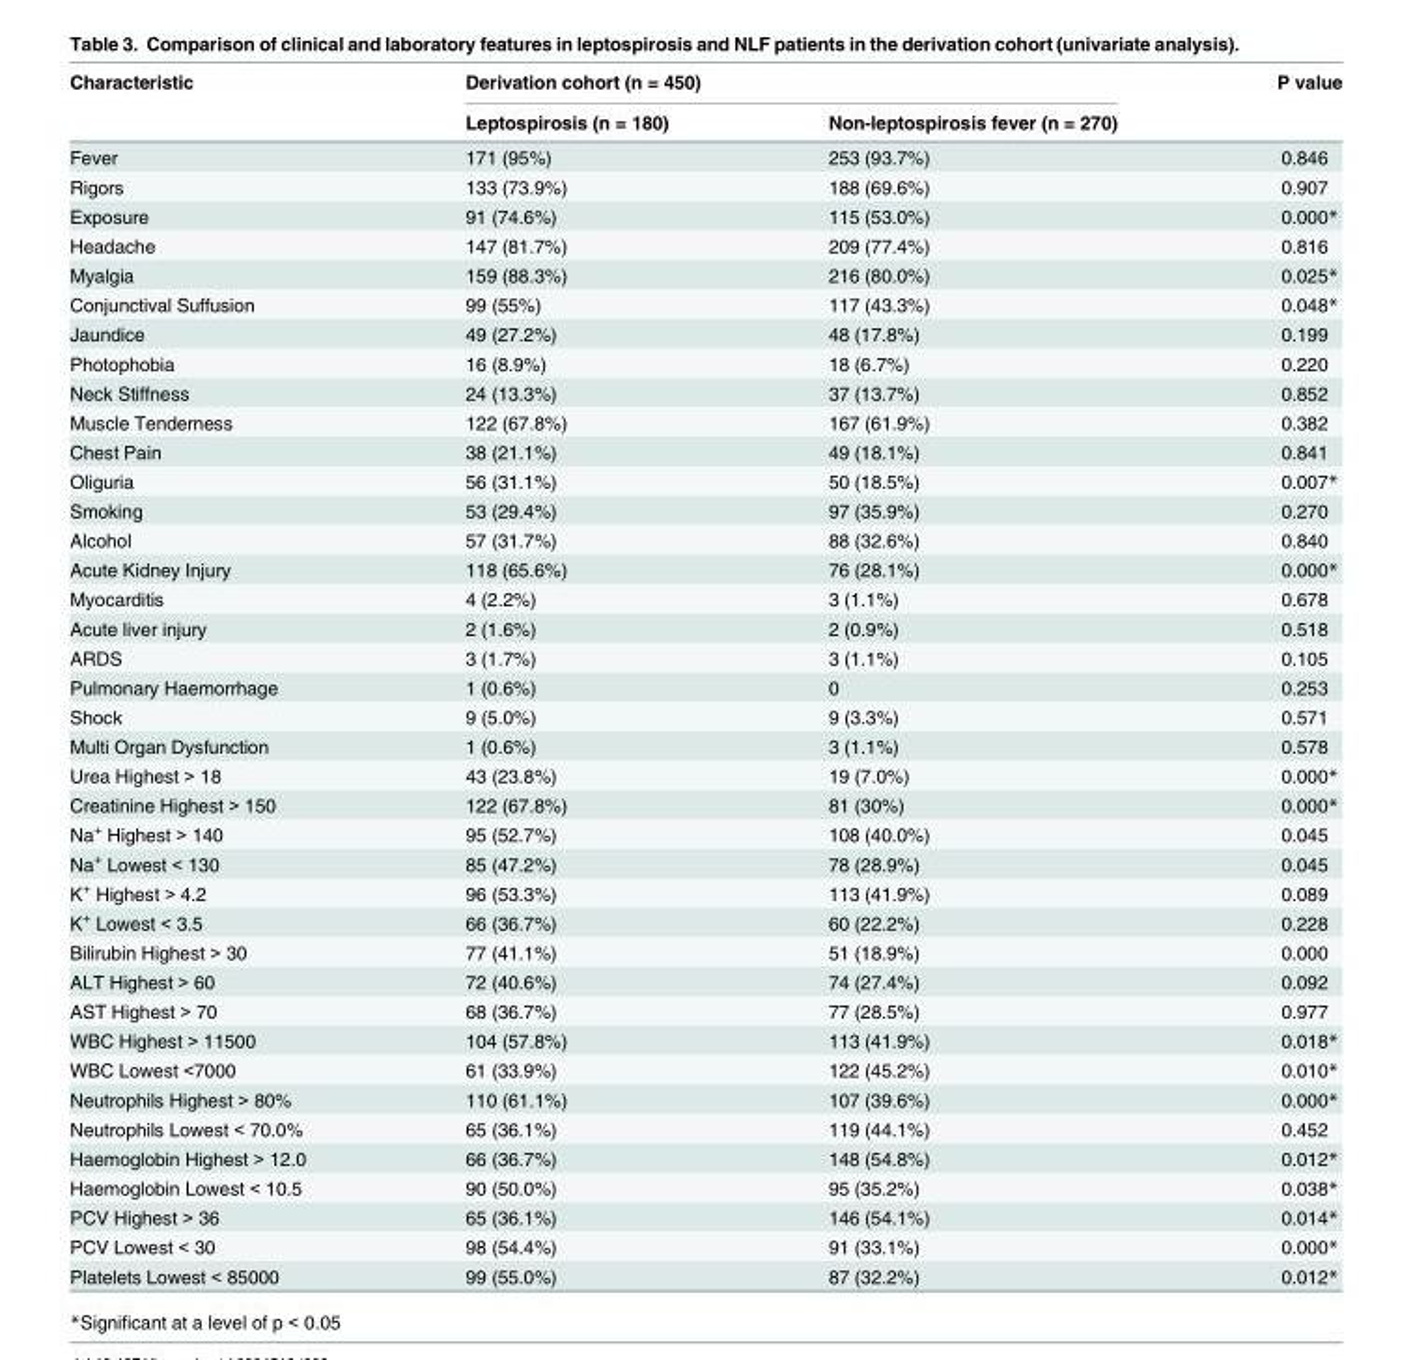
<table><thead><tr><td rowspan="2">Characteristic</td><td colspan="2">Derivation cohort (n = 450)</td><td rowspan="2">P value</td></tr><tr><td>Leptospirosis (n = 180)</td><td>Non-leptospirosis fever (n = 270)</td></tr></thead><tbody><tr><td>Fever</td><td>171 (95%)</td><td>253 (93.7%)</td><td>0.846</td></tr><tr><td>Rigors</td><td>133 (73.9%)</td><td>188 (69.6%)</td><td>0.907</td></tr><tr><td>Exposure</td><td>91 (74.6%)</td><td>115 (53.0%)</td><td>0.000*</td></tr><tr><td>Headache</td><td>147 (81.7%)</td><td>209 (77.4%)</td><td>0.816</td></tr><tr><td>Myalgia</td><td>159 (88.3%)</td><td>216 (80.0%)</td><td>0.025*</td></tr><tr><td>Conjunctival Suffusion</td><td>99 (55%)</td><td>117 (43.3%)</td><td>0.048*</td></tr><tr><td>Jaundice</td><td>49 (27.2%)</td><td>48 (17.8%)</td><td>0.199</td></tr><tr><td>Photophobia</td><td>16 (8.9%)</td><td>18 (6.7%)</td><td>0.220</td></tr><tr><td>Neck Stiffness</td><td>24 (13.3%)</td><td>37 (13.7%)</td><td>0.852</td></tr><tr><td>Muscle Tenderness</td><td>122 (67.8%)</td><td>167 (61.9%)</td><td>0.382</td></tr><tr><td>Chest Pain</td><td>38 (21.1%)</td><td>49 (18.1%)</td><td>0.841</td></tr><tr><td>Oliguria</td><td>56 (31.1%)</td><td>50 (18.5%)</td><td>0.007*</td></tr><tr><td>Smoking</td><td>53 (29.4%)</td><td>97 (35.9%)</td><td>0.270</td></tr><tr><td>Alcohol</td><td>57 (31.7%)</td><td>88 (32.6%)</td><td>0.840</td></tr><tr><td>Acute Kidney Injury</td><td>118 (65.6%)</td><td>76 (28.1%)</td><td>0.000*</td></tr><tr><td>Myocarditis</td><td>4 (2.2%)</td><td>3 (1.1%)</td><td>0.678</td></tr><tr><td>Acute liver injury</td><td>2 (1.6%)</td><td>2 (0.9%)</td><td>0.518</td></tr><tr><td>ARDS</td><td>3 (1.7%)</td><td>3 (1.1%)</td><td>0.105</td></tr><tr><td>Pulmonary Haemorrhage</td><td>1 (0.6%)</td><td>0</td><td>0.253</td></tr><tr><td>Shock</td><td>9 (5.0%)</td><td>9 (3.3%)</td><td>0.571</td></tr><tr><td>Multi Organ Dysfunction</td><td>1 (0.6%)</td><td>3 (1.1%)</td><td>0.578</td></tr><tr><td>Urea Highest &gt; 18</td><td>43 (23.8%)</td><td>19 (7.0%)</td><td>0.000*</td></tr><tr><td>Creatinine Highest &gt; 150</td><td>122 (67.8%)</td><td>81 (30%)</td><td>0.000*</td></tr><tr><td>Na<sup>+</sup> Highest &gt; 140</td><td>95 (52.7%)</td><td>108 (40.0%)</td><td>0.045</td></tr><tr><td>Na<sup>+</sup> Lowest &lt; 130</td><td>85 (47.2%)</td><td>78 (28.9%)</td><td>0.045</td></tr><tr><td>K<sup>+</sup> Highest &gt; 4.2</td><td>96 (53.3%)</td><td>113 (41.9%)</td><td>0.089</td></tr><tr><td>K<sup>+</sup> Lowest &lt; 3.5</td><td>66 (36.7%)</td><td>60 (22.2%)</td><td>0.228</td></tr><tr><td>Bilirubin Highest &gt; 30</td><td>77 (41.1%)</td><td>51 (18.9%)</td><td>0.000</td></tr><tr><td>ALT Highest &gt; 60</td><td>72 (40.6%)</td><td>74 (27.4%)</td><td>0.092</td></tr><tr><td>AST Highest &gt; 70</td><td>68 (36.7%)</td><td>77 (28.5%)</td><td>0.977</td></tr><tr><td>WBC Highest &gt; 11500</td><td>104 (57.8%)</td><td>113 (41.9%)</td><td>0.018*</td></tr><tr><td>WBC Lowest &lt;7000</td><td>61 (33.9%)</td><td>122 (45.2%)</td><td>0.010*</td></tr><tr><td>Neutrophils Highest &gt; 80%</td><td>110 (61.1%)</td><td>107 (39.6%)</td><td>0.000*</td></tr><tr><td>Neutrophils Lowest &lt; 70.0%</td><td>65 (36.1%)</td><td>119 (44.1%)</td><td>0.452</td></tr><tr><td>Haemoglobin Highest &gt; 12.0</td><td>66 (36.7%)</td><td>148 (54.8%)</td><td>0.012*</td></tr><tr><td>Haemoglobin Lowest &lt; 10.5</td><td>90 (50.0%)</td><td>95 (35.2%)</td><td>0.038*</td></tr><tr><td>PCV Highest &gt; 36</td><td>65 (36.1%)</td><td>146 (54.1%)</td><td>0.014*</td></tr><tr><td>PCV Lowest &lt; 30</td><td>98 (54.4%)</td><td>91 (33.1%)</td><td>0.000*</td></tr><tr><td>Platelets Lowest &lt; 85000</td><td>99 (55.0%)</td><td>87 (32.2%)</td><td>0.012*</td></tr></tbody></table>